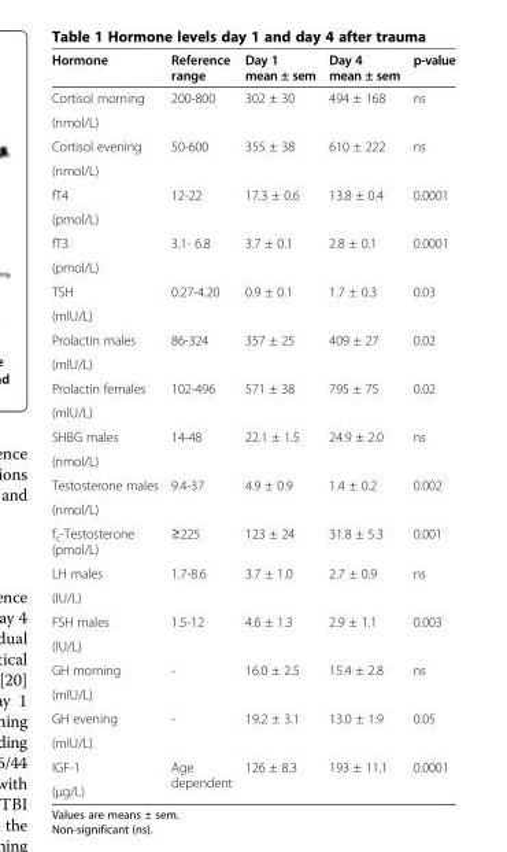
<table><thead><tr><td>Hormone</td><td>Reference range</td><td>Day 1 mean ± sem</td><td>Day 4 mean ± sem</td><td>p-value</td></tr></thead><tbody><tr><td>Cortisol morning</td><td rowspan="2">200-800</td><td rowspan="2">302 ± 30</td><td rowspan="2">494 ± 168</td><td rowspan="2">ns</td></tr><tr><td>(nmol/L)</td></tr><tr><td>Cortisol evening</td><td rowspan="2">50-600</td><td rowspan="2">355 ± 38</td><td rowspan="2">610 ± 222</td><td rowspan="2">ns</td></tr><tr><td>(nmol/L)</td></tr><tr><td>fT4</td><td rowspan="2">12-22</td><td rowspan="2">17.3 ± 0.6</td><td rowspan="2">13.8 ± 0.4</td><td rowspan="2">0.0001</td></tr><tr><td>(pmol/L)</td></tr><tr><td>fT3</td><td rowspan="2">3.1- 6.8</td><td rowspan="2">3.7 ± 0.1</td><td rowspan="2">2.8 ± 0.1</td><td rowspan="2">0.0001</td></tr><tr><td>(pmol/L)</td></tr><tr><td>TSH</td><td rowspan="2">0.27-4.20</td><td rowspan="2">0.9 ± 0.1</td><td rowspan="2">1.7 ± 0.3</td><td rowspan="2">0.03</td></tr><tr><td>(mlU/L)</td></tr><tr><td>Prolactin males</td><td rowspan="2">86-324</td><td rowspan="2">357 ± 25</td><td rowspan="2">409 ± 27</td><td rowspan="2">0.02</td></tr><tr><td>(mlU/L)</td></tr><tr><td>Prolactin females</td><td rowspan="2">102-496</td><td rowspan="2">571 ± 38</td><td rowspan="2">795 ± 75</td><td rowspan="2">0.02</td></tr><tr><td>(mlU/L)</td></tr><tr><td>SHBG males</td><td rowspan="2">14-48</td><td rowspan="2">22.1 ± 1.5</td><td rowspan="2">24.9 ± 2.0</td><td rowspan="2">ns</td></tr><tr><td>(nmol/L)</td></tr><tr><td>Testosterone males</td><td rowspan="2">9.4-37</td><td rowspan="2">4.9 ± 0.9</td><td rowspan="2">1.4 ± 0.2</td><td rowspan="2">0.002</td></tr><tr><td>(nmol/L)</td></tr><tr><td>f<sub>c</sub>-Testosterone (pmol/L)</td><td>≥225</td><td>123 ± 24</td><td>31.8 ± 5.3</td><td>0.001</td></tr><tr><td>LH males</td><td rowspan="2">1.7-8.6</td><td rowspan="2">3.7 ± 1.0</td><td rowspan="2">2.7 ± 0.9</td><td rowspan="2">ns</td></tr><tr><td>(IU/L)</td></tr><tr><td>FSH males</td><td rowspan="2">1.5-12</td><td rowspan="2">4.6 ± 1.3</td><td rowspan="2">2.9 ± 1.1</td><td rowspan="2">0.003</td></tr><tr><td>(IU/L)</td></tr><tr><td>GH morning</td><td rowspan="2">-</td><td rowspan="2">16.0 ± 2.5</td><td rowspan="2">15.4 ± 2.8</td><td rowspan="2">ns</td></tr><tr><td>(mIU/L)</td></tr><tr><td>GH evening</td><td rowspan="2">-</td><td rowspan="2">19.2 ± 3.1</td><td rowspan="2">13.0 ± 1.9</td><td rowspan="2">0.05</td></tr><tr><td>(mIU/L)</td></tr><tr><td>IGF-1</td><td rowspan="2">Age dependent</td><td rowspan="2">126 ± 8.3</td><td rowspan="2">193 ± 11.1</td><td rowspan="2">0.0001</td></tr><tr><td>(μg/L)</td></tr></tbody></table>